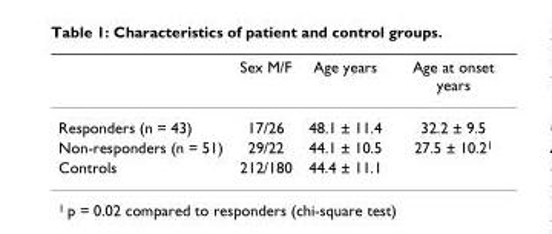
<table><thead><tr><td></td><td>Sex M/F</td><td>Age years</td><td>Age at onset years</td></tr></thead><tbody><tr><td>Responders (n = 43)</td><td>17/26</td><td>48.1 ± 11.4</td><td>32.2 ± 9.5</td></tr><tr><td>Non-responders (n = 51)</td><td>29/22</td><td>44.1 ± 10.5</td><td>27.5 ± 10.2<sup>1</sup></td></tr><tr><td>Controls</td><td>212/180</td><td>44.4 ± 11.1</td><td></td></tr></tbody></table>